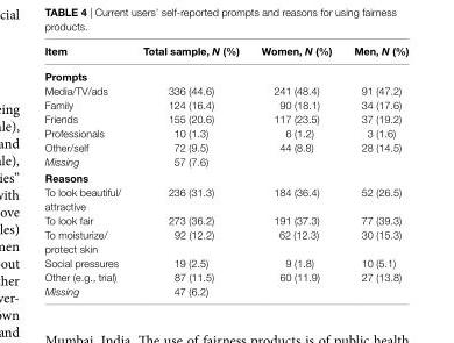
<table><thead><tr><td>item</td><td>Total sample, N (%)</td><td>Women, N (%)</td><td>Men, N (%)</td></tr></thead><tbody><tr><td colspan="4">Prompts</td></tr><tr><td>Media/TV/ads</td><td>336 (44.6)</td><td>241 (48.4)</td><td>91 (47.2)</td></tr><tr><td>Family</td><td>124 (16.4)</td><td>90 (18.1)</td><td>34 (17.6)</td></tr><tr><td>Friends</td><td>155 (20.6)</td><td>117 (23.5)</td><td>37 (19.2)</td></tr><tr><td>Professionals</td><td>10 (1.3)</td><td>6 (1.2)</td><td>3 (1.6)</td></tr><tr><td>Other/self</td><td>72 (9.5)</td><td>44 (8.8)</td><td>28 (14.5)</td></tr><tr><td>Missing</td><td>57 (7.6)</td><td></td><td></td></tr><tr><td colspan="4">reasons</td></tr><tr><td>To look beautiful/ attractive</td><td>236 (31.3)</td><td>184 (36.4)</td><td>52 (26.5)</td></tr><tr><td>To look fair</td><td>273 (36.2)</td><td>191 (37.3)</td><td>77 (39.3)</td></tr><tr><td>To moisturize/ protect skin</td><td>92 (12.2)</td><td>62 (12.3)</td><td>30 (15.3)</td></tr><tr><td>Social pressures</td><td>19 (2.5)</td><td>9 (1.8)</td><td>10 (5.1)</td></tr><tr><td>Other (e.g., trial)</td><td>87 (11.5)</td><td>60 (11.9)</td><td>27 (13.8)</td></tr><tr><td>Missing</td><td>47 (6.2)</td><td></td><td></td></tr></tbody></table>